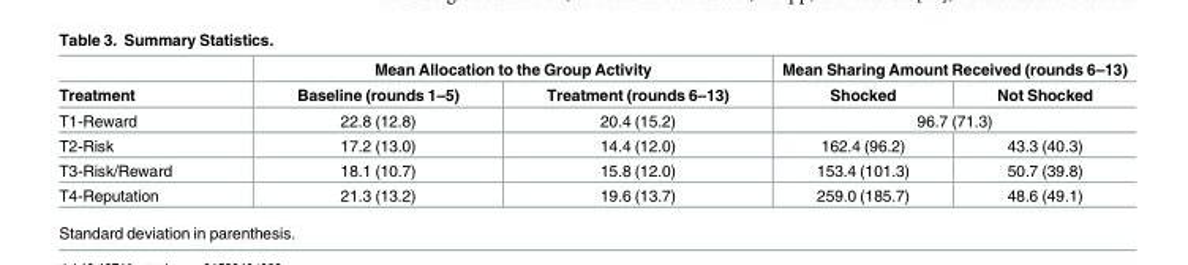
<table><thead><tr><td rowspan="2">Treatment</td><td colspan="2">Mean Allocation to the Group Activity</td><td colspan="2">Mean Sharing Amount Received (rounds 6–13)</td></tr><tr><td>Baseline (rounds 1–5)</td><td>Treatment (rounds 6–13)</td><td>Shocked</td><td>Not Shocked</td></tr></thead><tbody><tr><td>T1-Reward</td><td>22.8 (12.8)</td><td>20.4 (15.2)</td><td colspan="2">96.7 (71.3)</td></tr><tr><td>T2-Risk</td><td>17.2 (13.0)</td><td>14.4 (12.0)</td><td>162.4 (96.2)</td><td>43.3 (40.3)</td></tr><tr><td>T3-Risk/Reward</td><td>18.1 (10.7)</td><td>15.8 (12.0)</td><td>153.4 (101.3)</td><td>50.7 (39.8)</td></tr><tr><td>T4-Reputation</td><td>21.3 (13.2)</td><td>19.6 (13.7)</td><td>259.0 (185.7)</td><td>48.6 (49.1)</td></tr></tbody></table>